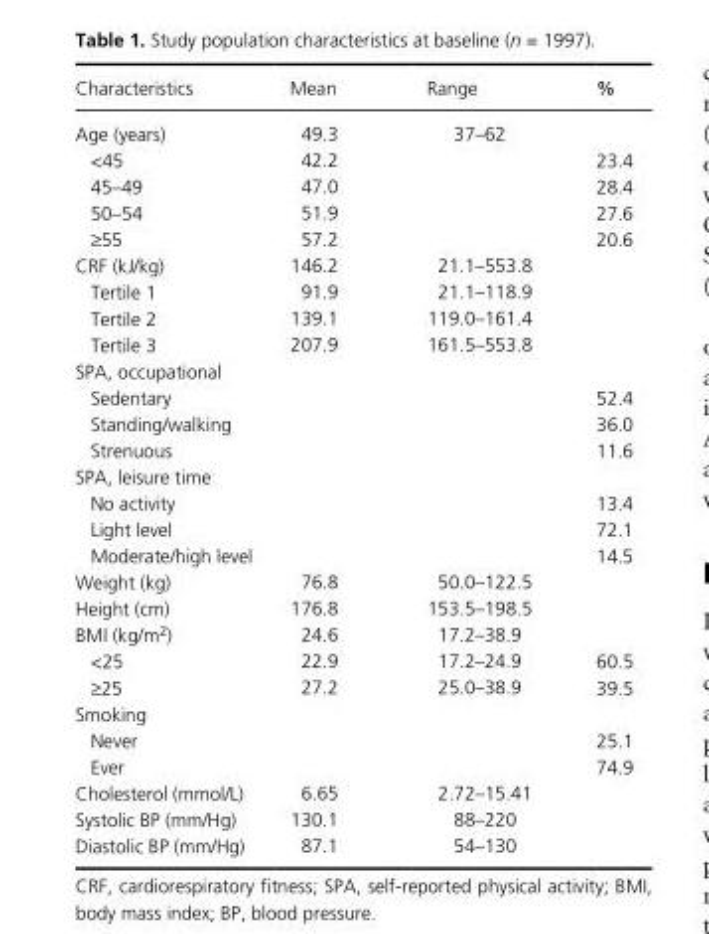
<table><thead><tr><td>Characteristics</td><td>Mean</td><td>Range</td><td>%</td></tr></thead><tbody><tr><td>Age (years)</td><td>49.3</td><td>37–62</td><td></td></tr><tr><td>&lt;45</td><td>42.2</td><td></td><td>23.4</td></tr><tr><td>45–49</td><td>47.0</td><td></td><td>28.4</td></tr><tr><td>50–54</td><td>51.9</td><td></td><td>27.6</td></tr><tr><td>≥55</td><td>57.2</td><td></td><td>20.6</td></tr><tr><td>CRF (kJ/kg)</td><td>146.2</td><td>21.1–553.8</td><td></td></tr><tr><td>Tertile 1</td><td>91.9</td><td>21.1–118.9</td><td></td></tr><tr><td>Tertile 2</td><td>139.1</td><td>119.0–161.4</td><td></td></tr><tr><td>Tertile 3</td><td>207.9</td><td>161.5–553.8</td><td></td></tr><tr><td colspan="4">SPA, occupational</td></tr><tr><td>Sedentary</td><td></td><td></td><td>52.4</td></tr><tr><td>Standing/walking</td><td></td><td></td><td>36.0</td></tr><tr><td>Strenuous</td><td></td><td></td><td>11.6</td></tr><tr><td colspan="4">SPA, leisure time</td></tr><tr><td>No activity</td><td></td><td></td><td>13.4</td></tr><tr><td>Light level</td><td></td><td></td><td>72.1</td></tr><tr><td>Moderate/high level</td><td></td><td></td><td>14.5</td></tr><tr><td>Weight (kg)</td><td>76.8</td><td>50.0–122.5</td><td></td></tr><tr><td>Height (cm)</td><td>176.8</td><td>153.5–198.5</td><td></td></tr><tr><td>BMI (kg/m<sup>2</sup>)</td><td>24.6</td><td>17.2–38.9</td><td></td></tr><tr><td>&lt;25</td><td>22.9</td><td>17.2–24.9</td><td>60.5</td></tr><tr><td>≥25</td><td>27.2</td><td>25.0–38.9</td><td>39.5</td></tr><tr><td colspan="4">Smoking</td></tr><tr><td>Never</td><td></td><td></td><td>25.1</td></tr><tr><td>Ever</td><td></td><td></td><td>74.9</td></tr><tr><td>Cholesterol (mmol/L)</td><td>6.65</td><td>2.72–15.41</td><td></td></tr><tr><td>Systolic BP (mm/Hg)</td><td>130.1</td><td>88–220</td><td></td></tr><tr><td>Diastolic BP (mm/Hg)</td><td>87.1</td><td>54–130</td><td></td></tr></tbody></table>